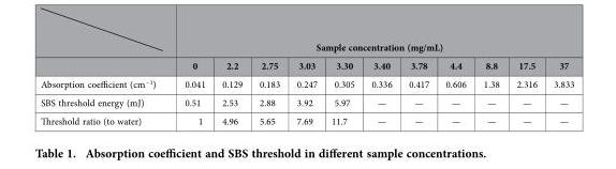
<table><thead><tr><td rowspan="2"></td><td colspan="11">Sample concentration (mg/mL)</td></tr><tr><td>0</td><td>2.2</td><td>2.75</td><td>3.03</td><td>3.30</td><td>3.40</td><td>3.78</td><td>4.4</td><td>8.8</td><td>17.5</td><td>37</td></tr></thead><tbody><tr><td>Absorption coefficient (cm<sup>−1</sup>)</td><td>0.041</td><td>0.129</td><td>0.183</td><td>0.247</td><td>0.305</td><td>0.336</td><td>0.417</td><td>0.606</td><td>1.38</td><td>2.316</td><td>3.833</td></tr><tr><td>SBS threshold energy (mJ)</td><td>0.51</td><td>2.53</td><td>2.88</td><td>3.92</td><td>5.97</td><td>—</td><td>—</td><td>—</td><td>—</td><td>—</td><td>—</td></tr><tr><td>Threshold ratio (to water)</td><td>1</td><td>4.96</td><td>5.65</td><td>7.69</td><td>11.7</td><td>—</td><td>—</td><td>—</td><td>—</td><td>—</td><td>—</td></tr></tbody></table>